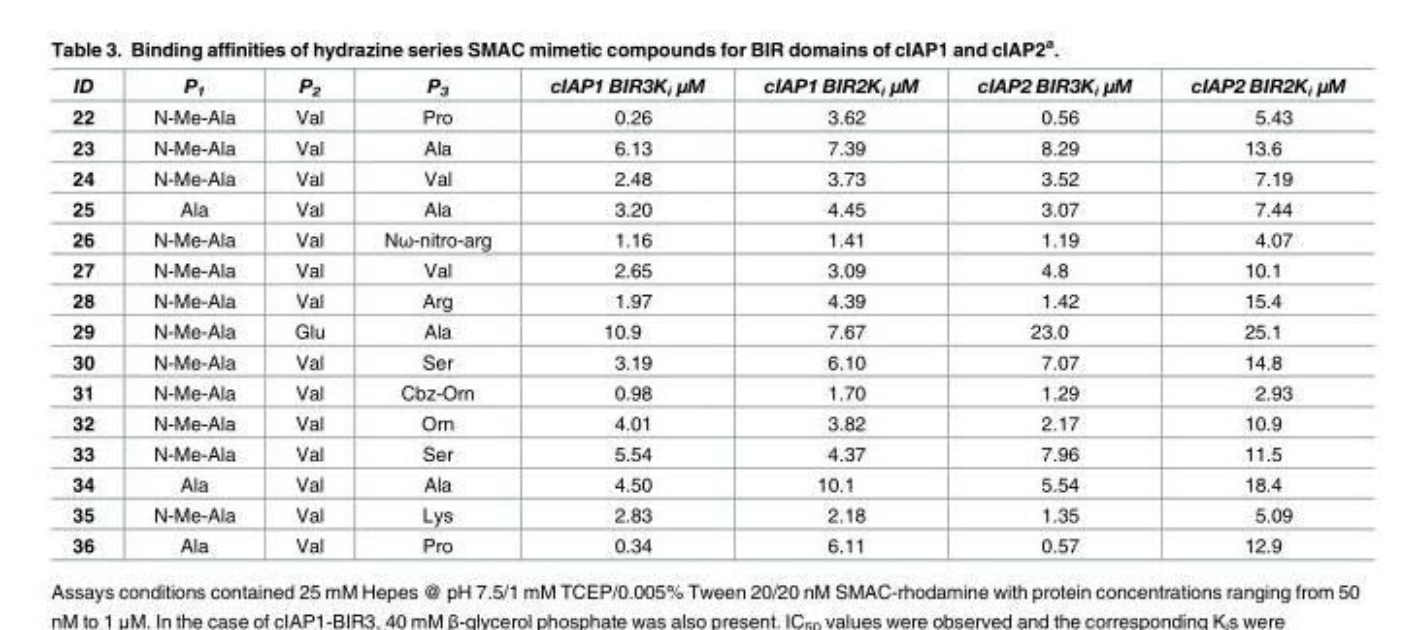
<table><thead><tr><td>ID</td><td>P<sub>1</sub></td><td>P<sub>2</sub></td><td>P<sub>3</sub></td><td>cIAP1 BIR3K<sub>i</sub> μM</td><td>cIAP1 BIR2K<sub>i</sub> μM</td><td>cIAP2 BIR3K<sub>i</sub> μM</td><td>cIAP2 BIR2K<sub>i</sub> μM</td></tr></thead><tbody><tr><td>22</td><td>N-Me-Ala</td><td>Val</td><td>Pro</td><td>0.26</td><td>3.62</td><td>0.56</td><td>5.43</td></tr><tr><td>23</td><td>N-Me-Ala</td><td>Val</td><td>Ala</td><td>6.13</td><td>7.39</td><td>8.29</td><td>13.6</td></tr><tr><td>24</td><td>N-Me-Ala</td><td>Val</td><td>Val</td><td>2.48</td><td>3.73</td><td>3.52</td><td>7.19</td></tr><tr><td>25</td><td>Ala</td><td>Val</td><td>Ala</td><td>3.20</td><td>4.45</td><td>3.07</td><td>7.44</td></tr><tr><td>26</td><td>N-Me-Ala</td><td>Val</td><td>Nω-nitro-arg</td><td>1.16</td><td>1.41</td><td>1.19</td><td>4.07</td></tr><tr><td>27</td><td>N-Me-Ala</td><td>Val</td><td>Val</td><td>2.65</td><td>3.09</td><td>4.8</td><td>10.1</td></tr><tr><td>28</td><td>N-Me-Ala</td><td>Val</td><td>Arg</td><td>1.97</td><td>4.39</td><td>1.42</td><td>15.4</td></tr><tr><td>29</td><td>N-Me-Ala</td><td>Glu</td><td>Ala</td><td>10.9</td><td>7.67</td><td>23.0</td><td>25.1</td></tr><tr><td>30</td><td>N-Me-Ala</td><td>Val</td><td>Ser</td><td>3.19</td><td>6.10</td><td>7.07</td><td>14.8</td></tr><tr><td>31</td><td>N-Me-Ala</td><td>Val</td><td>Cbz-Orn</td><td>0.98</td><td>1.70</td><td>1.29</td><td>2.93</td></tr><tr><td>32</td><td>N-Me-Ala</td><td>Val</td><td>Orn</td><td>4.01</td><td>3.82</td><td>2.17</td><td>10.9</td></tr><tr><td>33</td><td>N-Me-Ala</td><td>Val</td><td>Ser</td><td>5.54</td><td>4.37</td><td>7.96</td><td>11.5</td></tr><tr><td>34</td><td>Ala</td><td>Val</td><td>Ala</td><td>4.50</td><td>10.1</td><td>5.54</td><td>18.4</td></tr><tr><td>35</td><td>N-Me-Ala</td><td>Val</td><td>Lys</td><td>2.83</td><td>2.18</td><td>1.35</td><td>5.09</td></tr><tr><td>36</td><td>Ala</td><td>Val</td><td>Pro</td><td>0.34</td><td>6.11</td><td>0.57</td><td>12.9</td></tr></tbody></table>